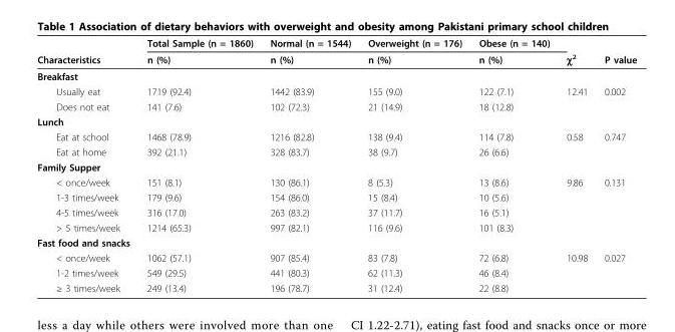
<table><thead><tr><td rowspan="2">Characteristics</td><td rowspan="2">Total Sample (n = 1860) n (%)</td><td rowspan="2">Normal (n = 1544) n (%)</td><td rowspan="2">Overweight (n = 176) n (%)</td><td rowspan="2">Obese (n = 140) n (%)</td><td rowspan="2">χ<sup>2</sup></td><td rowspan="2">P value</td></tr><tr></tr></thead><tbody><tr><td colspan="7">Breakfast</td></tr><tr><td>Usually eat</td><td>1719 (92.4)</td><td>1442 (83.9)</td><td>155 (9.0)</td><td>122 (7.1)</td><td>12.41</td><td>0.002</td></tr><tr><td>Does not eat</td><td>141 (7.6)</td><td>102 (72.3)</td><td>21 (14.9)</td><td>18 (12.8)</td><td></td><td></td></tr><tr><td colspan="7">Lunch</td></tr><tr><td>Eat at school</td><td>1468 (78.9)</td><td>1216 (82.8)</td><td>138 (9.4)</td><td>114 (7.8)</td><td>0.58</td><td>0.747</td></tr><tr><td>Eat at home</td><td>392 (21.1)</td><td>328 (83.7)</td><td>38 (9.7)</td><td>26 (6.6)</td><td></td><td></td></tr><tr><td colspan="7">Family Supper</td></tr><tr><td>&lt; once/week</td><td>151 (8.1)</td><td>130 (86.1)</td><td>8 (5.3)</td><td>13 (8.6)</td><td>9.86</td><td>0.131</td></tr><tr><td>1-3 times/week</td><td>179 (9.6)</td><td>154 (86.0)</td><td>15 (8.4)</td><td>10 (5.6)</td><td></td><td></td></tr><tr><td>4-5 times/week</td><td>316 (17.0)</td><td>263 (83.2)</td><td>37 (11.7)</td><td>16 (5.1)</td><td></td><td></td></tr><tr><td>&gt; 5 times/week</td><td>1214 (65.3)</td><td>997 (82.1)</td><td>116 (9.6)</td><td>101 (8.3)</td><td></td><td></td></tr><tr><td colspan="7">Fast food and snacks</td></tr><tr><td>&lt; once/week</td><td>1062 (57.1)</td><td>907 (85.4)</td><td>83 (7.8)</td><td>72 (6.8)</td><td>10.98</td><td>0.027</td></tr><tr><td>1-2 times/week</td><td>549 (29.5)</td><td>441 (80.3)</td><td>62 (11.3)</td><td>46 (8.4)</td><td></td><td></td></tr><tr><td>≥ 3 times/week</td><td>249 (13.4)</td><td>196 (78.7)</td><td>31 (12.4)</td><td>22 (8.8)</td><td></td><td></td></tr></tbody></table>